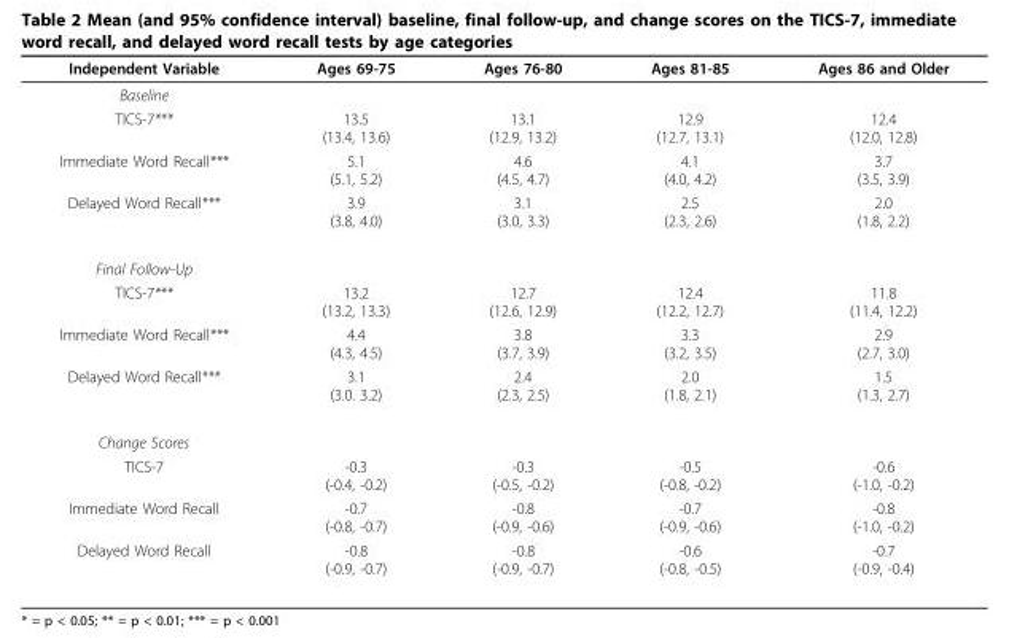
<table><thead><tr><td>Independent Variable</td><td>Ages 69-75</td><td>Ages 76-80</td><td>Ages 81-85</td><td>Ages 86 and Older</td></tr></thead><tbody><tr><td colspan="5">Baseline</td></tr><tr><td>TICS-7***</td><td>13.5 (13.4, 13.6)</td><td>13.1 (12.9, 13.2)</td><td>12.9 (12.7, 13.1)</td><td>12.4 (12.0, 12.8)</td></tr><tr><td>Immediate Word Recall***</td><td>5.1 (5.1, 5.2)</td><td>4.6 (4.5, 4.7)</td><td>4.1 (4.0, 4.2)</td><td>3.7 (3.5, 3.9)</td></tr><tr><td>Delayed Word Recall***</td><td>3.9 (3.8, 4.0)</td><td>3.1 (3.0, 3.3)</td><td>2.5 (2.3, 2.6)</td><td>2.0 (1.8, 2.2)</td></tr><tr><td colspan="5">Final Follow-Up</td></tr><tr><td>TICS-7***</td><td>13.2 (13.2, 13.3)</td><td>12.7 (12.6, 12.9)</td><td>12.4 (12.2, 12.7)</td><td>11.8 (11.4, 12.2)</td></tr><tr><td>Immediate Word Recall***</td><td>4.4 (4.3, 4.5)</td><td>3.8 (3.7, 3.9)</td><td>3.3 (3.2, 3.5)</td><td>2.9 (2.7, 3.0)</td></tr><tr><td>Delayed Word Recall***</td><td>3.1 (3.0. 3.2)</td><td>2.4 (2.3, 2.5)</td><td>2.0 (1.8, 2.1)</td><td>1.5 (1.3, 2.7)</td></tr><tr><td colspan="5">Change Scores</td></tr><tr><td>TICS-7</td><td>-0.3 (-0.4, -0.2)</td><td>-0.3 (-0.5, -0.2)</td><td>-0.5 (-0.8, -0.2)</td><td>-0.6 (-1.0, -0.2)</td></tr><tr><td>Immediate Word Recall</td><td>-0.7 (-0.8, -0.7)</td><td>-0.8 (-0.9, -0.6)</td><td>-0.7 (-0.9, -0.6)</td><td>-0.8 (-1.0, -0.2)</td></tr><tr><td>Delayed Word Recall</td><td>-0.8 (-0.9, -0.7)</td><td>-0.8 (-0.9, -0.7)</td><td>-0.6 (-0.8, -0.5)</td><td>-0.7 (-0.9, -0.4)</td></tr></tbody></table>